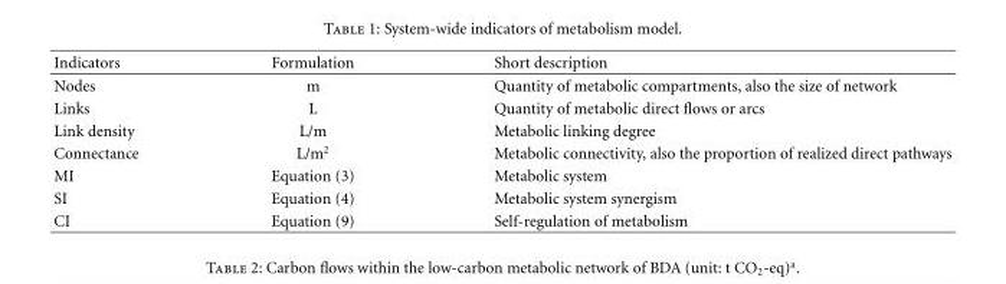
<table><thead><tr><td>Indicators</td><td>Formulation</td><td>Short description</td></tr></thead><tbody><tr><td>Nodes</td><td>m</td><td>Quantity of metabolic compartments, also the size of network</td></tr><tr><td>Links</td><td>L</td><td>Quantity of metabolic direct flows or arcs</td></tr><tr><td>Link density</td><td>L/m</td><td>Metabolic linking degree</td></tr><tr><td>Connectance</td><td>L/m<sup>2</sup></td><td>Metabolic connectivity, also the proportion of realized direct pathways</td></tr><tr><td>MI</td><td>Equation (3)</td><td>Metabolic system</td></tr><tr><td>SI</td><td>Equation (4)</td><td>Metabolic system synergism</td></tr><tr><td>CI</td><td>Equation (9)</td><td>Self-regulation of metabolism</td></tr></tbody></table>